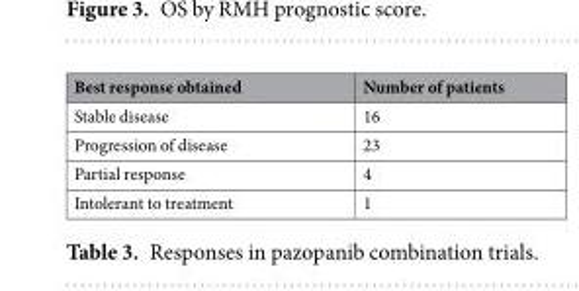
<table><thead><tr><td>Best response obtained</td><td>Number of patients</td></tr></thead><tbody><tr><td>Stable disease</td><td>16</td></tr><tr><td>Progression of disease</td><td>23</td></tr><tr><td>Partial response</td><td>4</td></tr><tr><td>Intolerant to treatment</td><td>1</td></tr></tbody></table>